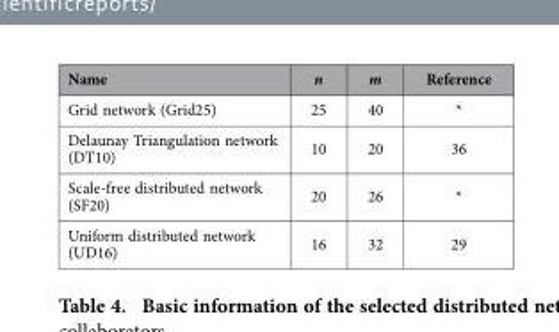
<table><thead><tr><td>Name</td><td>n</td><td>m</td><td>Reference</td></tr></thead><tbody><tr><td>Grid network (Grid25)</td><td>25</td><td>40</td><td>*</td></tr><tr><td>Delaunay Triangulation network (DT10)</td><td>10</td><td>20</td><td>36</td></tr><tr><td>Scale-free distributed network (SF20)</td><td>20</td><td>26</td><td>*</td></tr><tr><td>Uniform distributed network (UD16)</td><td>16</td><td>32</td><td>29</td></tr></tbody></table>